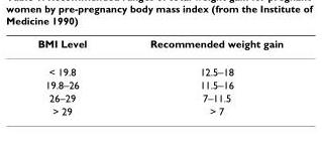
<table><thead><tr><td>BMI Level</td><td>Recommended weight gain</td></tr></thead><tbody><tr><td>&lt; 19.8</td><td>12.5–18</td></tr><tr><td>19.8–26</td><td>11.5–16</td></tr><tr><td>26–29</td><td>7–11.5</td></tr><tr><td>&gt; 29</td><td>&gt; 7</td></tr></tbody></table>